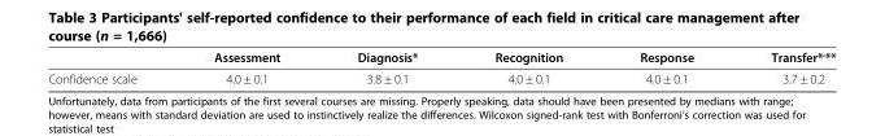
<table><thead><tr><td></td><td>Assessment</td><td>Diagnosis*</td><td>Recognition</td><td>Response</td><td>Transfer*<sup>,</sup>**</td></tr></thead><tbody><tr><td>Confidence scale</td><td>4.0 ± 0.1</td><td>3.8 ± 0.1</td><td>4.0 ± 0.1</td><td>4.0 ± 0.1</td><td>3.7 ± 0.2</td></tr></tbody></table>